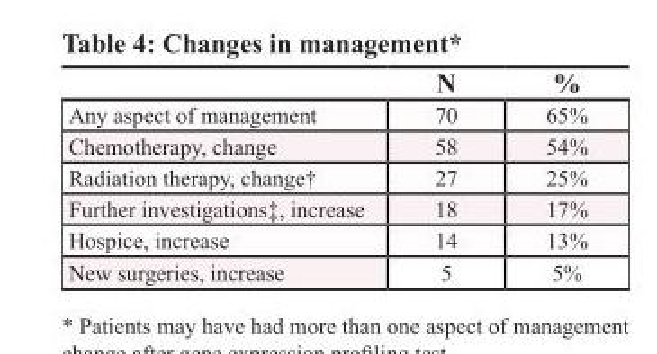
<table><thead><tr><td></td><td>N</td><td>%</td></tr></thead><tbody><tr><td>Any aspect of management</td><td>70</td><td>65%</td></tr><tr><td>Chemotherapy, change</td><td>58</td><td>54%</td></tr><tr><td>Radiation therapy, change<sup>†</sup></td><td>27</td><td>25%</td></tr><tr><td>Further investigations<sup>‡</sup>, increase</td><td>18</td><td>17%</td></tr><tr><td>Hospice, increase</td><td>14</td><td>13%</td></tr><tr><td>New surgeries, increase</td><td>5</td><td>5%</td></tr></tbody></table>